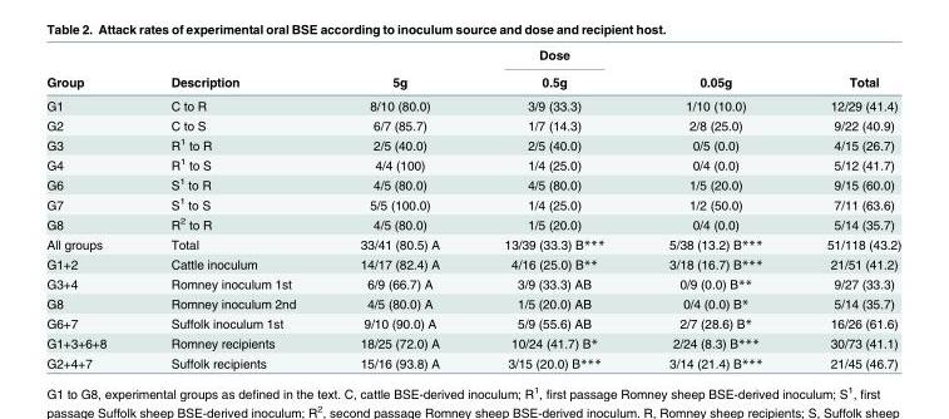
<table><thead><tr><td rowspan="2">Group</td><td rowspan="2">Description</td><td rowspan="2">5g</td><td rowspan="2">Dose 0.5g</td><td rowspan="2">0.05g</td><td rowspan="2">Total</td></tr><tr></tr></thead><tbody><tr><td>G1</td><td>C to R</td><td>8/10 (80.0)</td><td>3/9 (33.3)</td><td>1/10 (10.0)</td><td>12/29 (41.4)</td></tr><tr><td>G2</td><td>C to S</td><td>6/7 (85.7)</td><td>1/7 (14.3)</td><td>2/8 (25.0)</td><td>9/22 (40.9)</td></tr><tr><td>G3</td><td>R<sup>1</sup> to R</td><td>2/5 (40.0)</td><td>2/5 (40.0)</td><td>0/5 (0.0)</td><td>4/15 (26.7)</td></tr><tr><td>G4</td><td>R<sup>1</sup> to S</td><td>4/4 (100)</td><td>1/4 (25.0)</td><td>0/4 (0.0)</td><td>5/12 (41.7)</td></tr><tr><td>G6</td><td>S<sup>1</sup> to R</td><td>4/5 (80.0)</td><td>4/5 (80.0)</td><td>1/5 (20.0)</td><td>9/15 (60.0)</td></tr><tr><td>G7</td><td>S<sup>1</sup> to S</td><td>5/5 (100.0)</td><td>1/4 (25.0)</td><td>1/2 (50.0)</td><td>7/11 (63.6)</td></tr><tr><td>G8</td><td>R<sup>2</sup> to R</td><td>4/5 (80.0)</td><td>1/5 (20.0)</td><td>0/4 (0.0)</td><td>5/14 (35.7)</td></tr><tr><td>All groups</td><td>Total</td><td>33/41 (80.5) A</td><td>13/39 (33.3) B***</td><td>5/38 (13.2) B***</td><td>51/118 (43.2)</td></tr><tr><td>G1+2</td><td>Cattle inoculum</td><td>14/17 (82.4) A</td><td>4/16 (25.0) B**</td><td>3/18 (16.7) B***</td><td>21/51 (41.2)</td></tr><tr><td>G3+4</td><td>Romney inoculum 1st</td><td>6/9 (66.7) A</td><td>3/9 (33.3) AB</td><td>0/9 (0.0) B**</td><td>9/27 (33.3)</td></tr><tr><td>G8</td><td>Romney inoculum 2nd</td><td>4/5 (80.0) A</td><td>1/5 (20.0) AB</td><td>0/4 (0.0) B*</td><td>5/14 (35.7)</td></tr><tr><td>G6+7</td><td>Suffolk inoculum 1st</td><td>9/10 (90.0) A</td><td>5/9 (55.6) AB</td><td>2/7 (28.6) B*</td><td>16/26 (61.6)</td></tr><tr><td>G1+3+6+8</td><td>Romney recipients</td><td>18/25 (72.0) A</td><td>10/24 (41.7) B*</td><td>2/24 (8.3) B***</td><td>30/73 (41.1)</td></tr><tr><td>G2+4+7</td><td>Suffolk recipients</td><td>15/16 (93.8) A</td><td>3/15 (20.0) B***</td><td>3/14 (21.4) B***</td><td>21/45 (46.7)</td></tr></tbody></table>